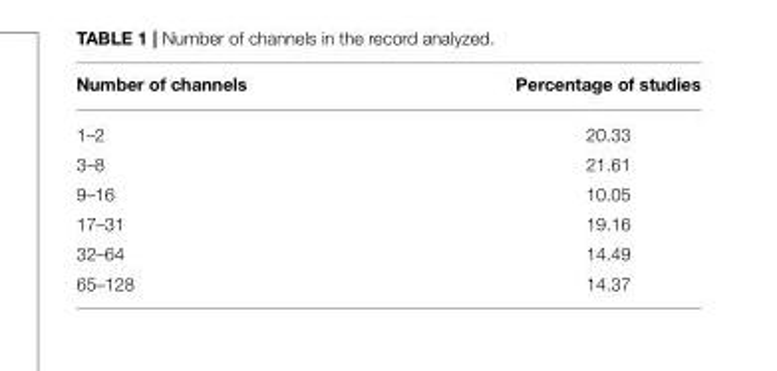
<table><thead><tr><td>Number of channels</td><td>Percentage of studies</td></tr></thead><tbody><tr><td>1–2</td><td>20.33</td></tr><tr><td>3–8</td><td>21.61</td></tr><tr><td>9–16</td><td>10.05</td></tr><tr><td>17–31</td><td>19.16</td></tr><tr><td>32–64</td><td>14.49</td></tr><tr><td>65–128</td><td>14.37</td></tr></tbody></table>